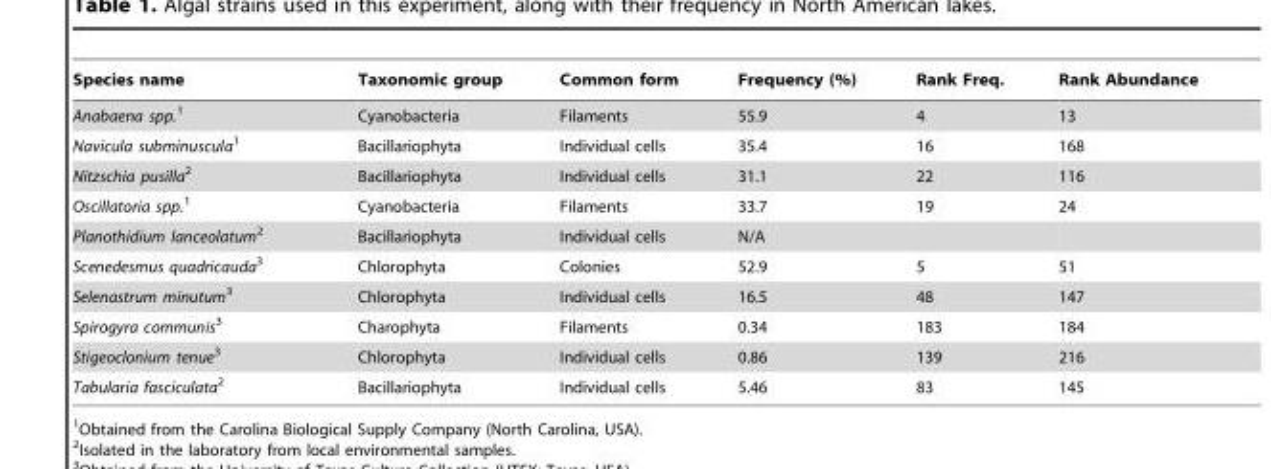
<table><thead><tr><td>Species name</td><td>Taxonomic group</td><td>Common form</td><td>Frequency (%)</td><td>Rank Freq.</td><td>Rank Abundance</td></tr></thead><tbody><tr><td>Anabaena spp.1</td><td>Cyanobacteria</td><td>Filaments</td><td>55.9</td><td>4</td><td>13</td></tr><tr><td>Navicula subminuscula1</td><td>Bacillariophyta</td><td>Individual cells</td><td>35.4</td><td>16</td><td>168</td></tr><tr><td>Nitzschia pusilla2</td><td>Bacillariophyta</td><td>Individual cells</td><td>31.1</td><td>22</td><td>116</td></tr><tr><td>Oscillatoria spp.1</td><td>Cyanobacteria</td><td>Filaments</td><td>33.7</td><td>19</td><td>24</td></tr><tr><td>Planothidium lanceolatum2</td><td>Bacillariophyta</td><td>Individual cells</td><td>N/A</td><td></td><td></td></tr><tr><td>Scenedesmus quadricauda3</td><td>Chlorophyta</td><td>Colonies</td><td>52.9</td><td>5</td><td>51</td></tr><tr><td>Selenastrum minutum3</td><td>Chlorophyta</td><td>Individual cells</td><td>16.5</td><td>48</td><td>147</td></tr><tr><td>Spirogyra communis3</td><td>Charophyta</td><td>Filaments</td><td>0.34</td><td>183</td><td>184</td></tr><tr><td>Stigeoclonium tenue3</td><td>Chlorophyta</td><td>Individual cells</td><td>0.86</td><td>139</td><td>216</td></tr><tr><td>Tabularia fasciculata2</td><td>Bacillariophyta</td><td>Individual cells</td><td>5.46</td><td>83</td><td>145</td></tr></tbody></table>